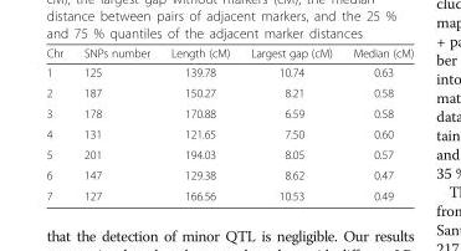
<table><thead><tr><td>Chr</td><td>SNPs number</td><td>Length (cM)</td><td>Largest gap (cM)</td><td>Median (cM)</td></tr></thead><tbody><tr><td>1</td><td>125</td><td>139.78</td><td>10.74</td><td>0.63</td></tr><tr><td>2</td><td>187</td><td>150.27</td><td>8.21</td><td>0.58</td></tr><tr><td>3</td><td>178</td><td>170.88</td><td>6.59</td><td>0.58</td></tr><tr><td>4</td><td>131</td><td>121.65</td><td>7.50</td><td>0.60</td></tr><tr><td>5</td><td>201</td><td>194.03</td><td>8.05</td><td>0.57</td></tr><tr><td>6</td><td>147</td><td>129.38</td><td>8.62</td><td>0.47</td></tr><tr><td>7</td><td>127</td><td>166.56</td><td>10.53</td><td>0.49</td></tr></tbody></table>